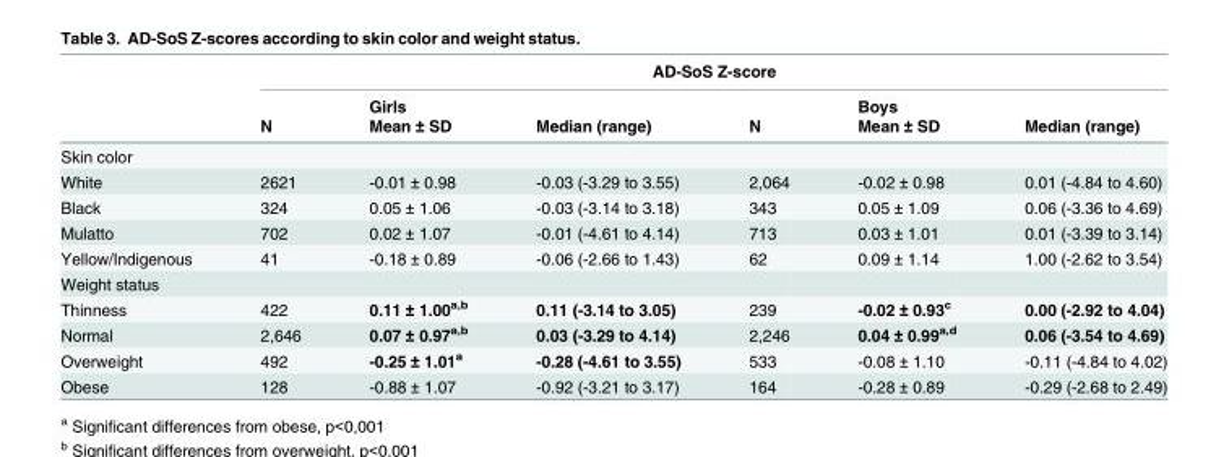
<table><thead><tr><td rowspan="3"></td><td colspan="6">AD-SoS Z-score</td></tr><tr><td rowspan="2">N</td><td rowspan="2">Girls Mean ± SD</td><td rowspan="2">Median (range)</td><td rowspan="2">N</td><td rowspan="2">Boys Mean ± SD</td><td rowspan="2">Median (range)</td></tr><tr></tr></thead><tbody><tr><td colspan="7">Skin color</td></tr><tr><td>White</td><td>2621</td><td>-0.01 ± 0.98</td><td>-0.03 (-3.29 to 3.55)</td><td>2,064</td><td>-0.02 ± 0.98</td><td>0.01 (-4.84 to 4.60)</td></tr><tr><td>Black</td><td>324</td><td>0.05 ± 1.06</td><td>-0.03 (-3.14 to 3.18)</td><td>343</td><td>0.05 ± 1.09</td><td>0.06 (-3.36 to 4.69)</td></tr><tr><td>Mulatto</td><td>702</td><td>0.02 ± 1.07</td><td>-0.01 (-4.61 to 4.14)</td><td>713</td><td>0.03 ± 1.01</td><td>0.01 (-3.39 to 3.14)</td></tr><tr><td>Yellow/Indigenous</td><td>41</td><td>-0.18 ± 0.89</td><td>-0.06 (-2.66 to 1.43)</td><td>62</td><td>0.09 ± 1.14</td><td>1.00 (-2.62 to 3.54)</td></tr><tr><td colspan="7">Weight status</td></tr><tr><td>Thinness</td><td>422</td><td>0.11 ± 1.00<sup>a,b</sup></td><td>0.11 (-3.14 to 3.05)</td><td>239</td><td>-0.02 ± 0.93<sup>c</sup></td><td>0.00 (-2.92 to 4.04)</td></tr><tr><td>Normal</td><td>2,646</td><td>0.07 ± 0.97<sup>a,b</sup></td><td>0.03 (-3.29 to 4.14)</td><td>2,246</td><td>0.04 ± 0.99<sup>a,d</sup></td><td>0.06 (-3.54 to 4.69)</td></tr><tr><td>Overweight</td><td>492</td><td>-0.25 ± 1.01<sup>a</sup></td><td>-0.28 (-4.61 to 3.55)</td><td>533</td><td>-0.08 ± 1.10</td><td>-0.11 (-4.84 to 4.02)</td></tr><tr><td>Obese</td><td>128</td><td>-0.88 ± 1.07</td><td>-0.92 (-3.21 to 3.17)</td><td>164</td><td>-0.28 ± 0.89</td><td>-0.29 (-2.68 to 2.49)</td></tr></tbody></table>